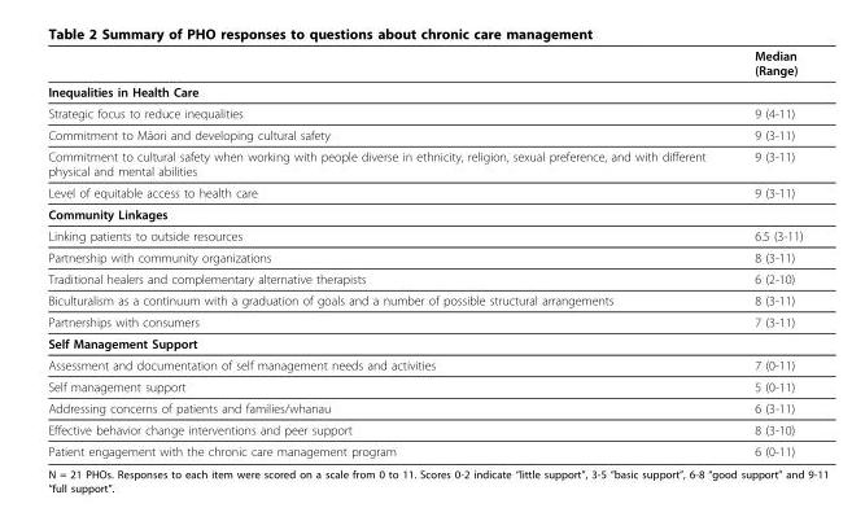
<table><thead><tr><td></td><td>Median (Range)</td></tr></thead><tbody><tr><td colspan="2">Inequalities in Health Care</td></tr><tr><td>Strategic focus to reduce inequalities</td><td>9 (4-11)</td></tr><tr><td>Commitment to Māori and developing cultural safety</td><td>9 (3-11)</td></tr><tr><td>Commitment to cultural safety when working with people diverse in ethnicity, religion, sexual preference, and with different physical and mental abilities</td><td>9 (3-11)</td></tr><tr><td>Level of equitable access to health care</td><td>9 (3-11)</td></tr><tr><td colspan="2">Community Linkages</td></tr><tr><td>Linking patients to outside resources</td><td>6.5 (3-11)</td></tr><tr><td>Partnership with community organizations</td><td>8 (3-11)</td></tr><tr><td>Traditional healers and complementary alternative therapists</td><td>6 (2-10)</td></tr><tr><td>Biculturalism as a continuum with a graduation of goals and a number of possible structural arrangements</td><td>8 (3-11)</td></tr><tr><td>Partnerships with consumers</td><td>7 (3-11)</td></tr><tr><td colspan="2">Self Management Support</td></tr><tr><td>Assessment and documentation of self management needs and activities</td><td>7 (0-11)</td></tr><tr><td>Self management support</td><td>5 (0-11)</td></tr><tr><td>Addressing concerns of patients and families/whanau</td><td>6 (3-11)</td></tr><tr><td>Effective behavior change interventions and peer support</td><td>8 (3-10)</td></tr><tr><td>Patient engagement with the chronic care management program</td><td>6 (0-11)</td></tr></tbody></table>